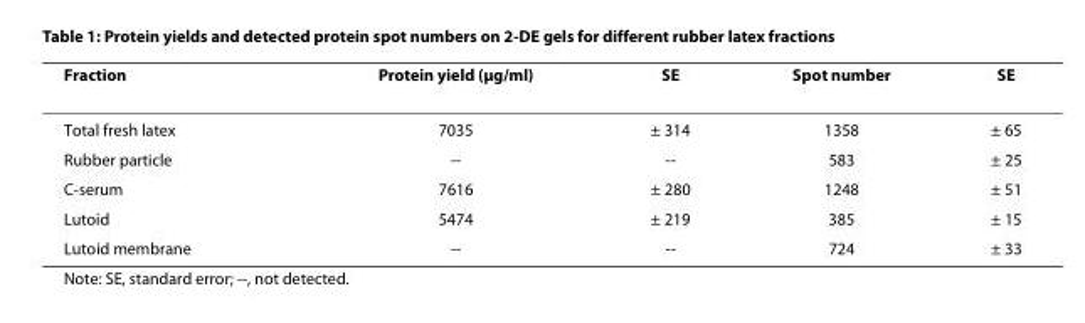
<table><thead><tr><td>Fraction</td><td>Protein yield (μg/ml)</td><td>SE</td><td>Spot number</td><td>SE</td></tr></thead><tbody><tr><td>Total fresh latex</td><td>7035</td><td>± 314</td><td>1358</td><td>± 65</td></tr><tr><td>Rubber particle</td><td>--</td><td>--</td><td>583</td><td>± 25</td></tr><tr><td>C-serum</td><td>7616</td><td>± 280</td><td>1248</td><td>± 51</td></tr><tr><td>Lutoid</td><td>5474</td><td>± 219</td><td>385</td><td>± 15</td></tr><tr><td>Lutoid membrane</td><td>--</td><td>--</td><td>724</td><td>± 33</td></tr></tbody></table>